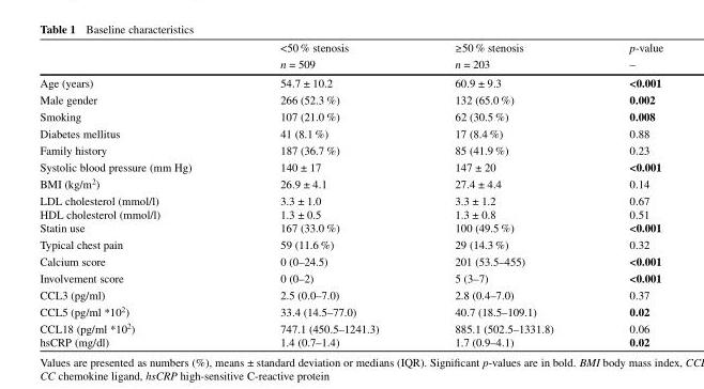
<table><thead><tr><td rowspan="2"></td><td rowspan="2">&lt;50 % stenosis n = 509</td><td rowspan="2">≥50 % stenosis n = 203</td><td rowspan="2">p-value –</td></tr><tr></tr></thead><tbody><tr><td>Age (years)</td><td>54.7 ± 10.2</td><td>60.9 ± 9.3</td><td>&lt;0.001</td></tr><tr><td>Male gender</td><td>266 (52.3 %)</td><td>132 (65.0 %)</td><td>0.002</td></tr><tr><td>Smoking</td><td>107 (21.0 %)</td><td>62 (30.5 %)</td><td>0.008</td></tr><tr><td>Diabetes mellitus</td><td>41 (8.1 %)</td><td>17 (8.4 %)</td><td>0.88</td></tr><tr><td>Family history</td><td>187 (36.7 %)</td><td>85 (41.9 %)</td><td>0.23</td></tr><tr><td>Systolic blood pressure (mm Hg)</td><td>140 ± 17</td><td>147 ± 20</td><td>&lt;0.001</td></tr><tr><td>BMI (kg/m<sup>2</sup>)</td><td>26.9 ± 4.1</td><td>27.4 ± 4.4</td><td>0.14</td></tr><tr><td>LDL cholesterol (mmol/l) HDL cholesterol (mmol/l) Statin use</td><td>3.3 ± 1.0 1.3 ± 0.5 167 (33.0 %)</td><td>3.3 ± 1.2 1.3 ± 0.8 100 (49.5 %)</td><td>0.67 0.51 &lt;0.001</td></tr><tr><td>Typical chest pain</td><td>59 (11.6 %)</td><td>29 (14.3 %)</td><td>0.32</td></tr><tr><td>Calcium score</td><td>0 (0–24.5)</td><td>201 (53.5–455)</td><td>&lt;0.001</td></tr><tr><td>Involvement score</td><td>0 (0–2)</td><td>5 (3–7)</td><td>&lt;0.001</td></tr><tr><td>CCL3 (pg/ml)</td><td>2.5 (0.0–7.0)</td><td>2.8 (0.4–7.0)</td><td>0.37</td></tr><tr><td>CCL5 (pg/ml *10<sup>2</sup>)</td><td>33.4 (14.5–77.0)</td><td>40.7 (18.5–109.1)</td><td>0.02</td></tr><tr><td>CCL18 (pg/ml *10<sup>2</sup>) hsCRP (mg/dl)</td><td>747.1 (450.5–1241.3) 1.4 (0.7–1.4)</td><td>885.1 (502.5–1331.8) 1.7 (0.9–4.1)</td><td>0.06 0.02</td></tr></tbody></table>